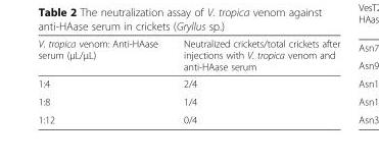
<table><thead><tr><td>V. tropica venom: Anti-HAase serum (μL/μL)</td><td>Neutralized crickets/total crickets after injections with V. tropica venom and anti-HAase serum</td></tr></thead><tbody><tr><td>1:4</td><td>2/4</td></tr><tr><td>1:8</td><td>1/4</td></tr><tr><td>1:12</td><td>0/4</td></tr></tbody></table>